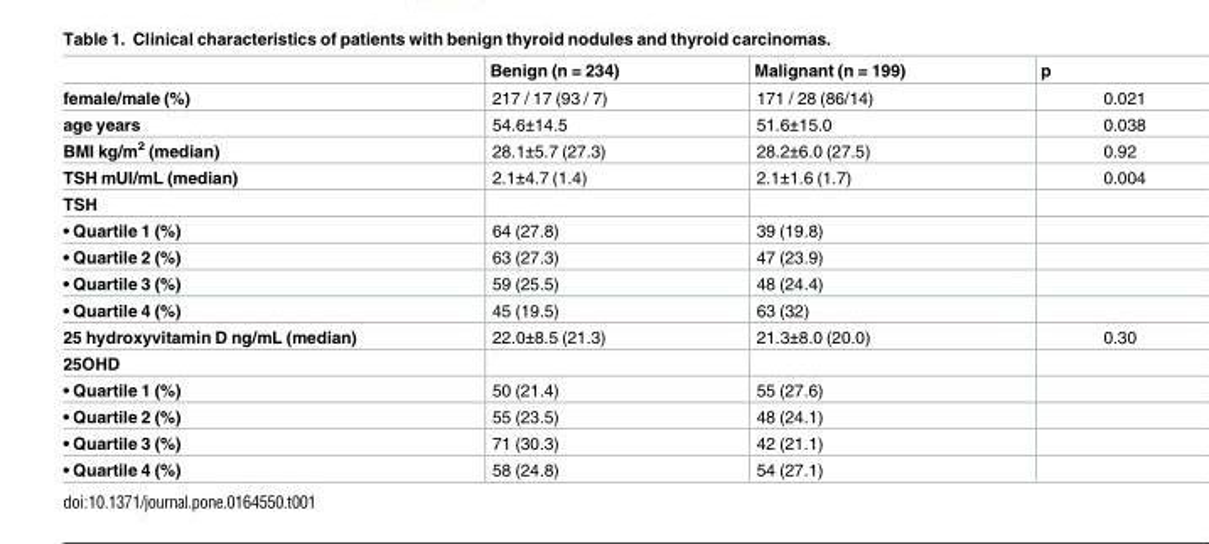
<table><thead><tr><td></td><td>Benign (n = 234)</td><td>Malignant (n = 199)</td><td>p</td></tr></thead><tbody><tr><td>female/male (%)</td><td>217 / 17 (93 / 7)</td><td>171 / 28 (86/14)</td><td>0.021</td></tr><tr><td>age years</td><td>54.6±14.5</td><td>51.6±15.0</td><td>0.038</td></tr><tr><td>BMI kg/m<sup>2</sup> (median)</td><td>28.1±5.7 (27.3)</td><td>28.2±6.0 (27.5)</td><td>0.92</td></tr><tr><td>TSH mUI/mL (median)</td><td>2.1±4.7 (1.4)</td><td>2.1±1.6 (1.7)</td><td>0.004</td></tr><tr><td colspan="4">TSH</td></tr><tr><td>• Quartile 1 (%)</td><td>64 (27.8)</td><td>39 (19.8)</td><td></td></tr><tr><td>• Quartile 2 (%)</td><td>63 (27.3)</td><td>47 (23.9)</td><td></td></tr><tr><td>• Quartile 3 (%)</td><td>59 (25.5)</td><td>48 (24.4)</td><td></td></tr><tr><td>• Quartile 4 (%)</td><td>45 (19.5)</td><td>63 (32)</td><td></td></tr><tr><td>25 hydroxyvitamin D ng/mL (median)</td><td>22.0±8.5 (21.3)</td><td>21.3±8.0 (20.0)</td><td>0.30</td></tr><tr><td colspan="4">25OHD</td></tr><tr><td>• Quartile 1 (%)</td><td>50 (21.4)</td><td>55 (27.6)</td><td></td></tr><tr><td>• Quartile 2 (%)</td><td>55 (23.5)</td><td>48 (24.1)</td><td></td></tr><tr><td>• Quartile 3 (%)</td><td>71 (30.3)</td><td>42 (21.1)</td><td></td></tr><tr><td>• Quartile 4 (%)</td><td>58 (24.8)</td><td>54 (27.1)</td><td></td></tr></tbody></table>